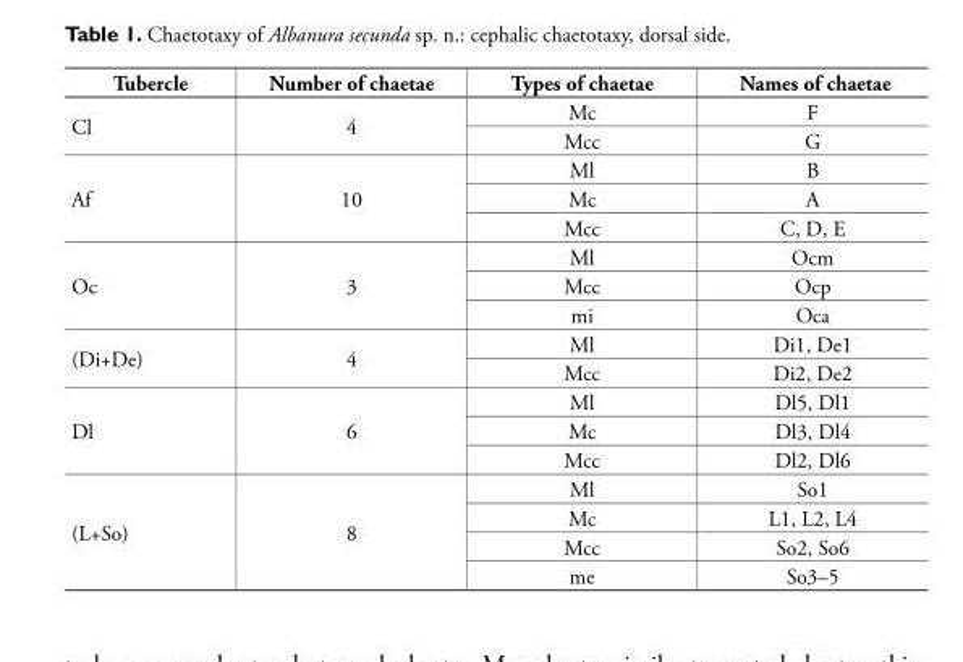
<table><thead><tr><td>Tubercle</td><td>Number of chaetae</td><td>Types of chaetae</td><td>Names of chaetae</td></tr></thead><tbody><tr><td rowspan="2">Cl</td><td rowspan="2">4</td><td>Mc</td><td>F</td></tr><tr><td>Mcc</td><td>G</td></tr><tr><td rowspan="3">Af</td><td rowspan="3">10</td><td>Ml</td><td>B</td></tr><tr><td>Mc</td><td>A</td></tr><tr><td>Mcc</td><td>C, D, E</td></tr><tr><td rowspan="3">Oc</td><td rowspan="3">3</td><td>Ml</td><td>Ocm</td></tr><tr><td>Mcc</td><td>Ocp</td></tr><tr><td>mi</td><td>Oca</td></tr><tr><td rowspan="2">(Di+De)</td><td rowspan="2">4</td><td>Ml</td><td>Di1, De1</td></tr><tr><td>Mcc</td><td>Di2, De2</td></tr><tr><td rowspan="3">Dl</td><td rowspan="3">6</td><td>Ml</td><td>Dl5, Dl1</td></tr><tr><td>Mc</td><td>Dl3, Dl4</td></tr><tr><td>Mcc</td><td>Dl2, Dl6</td></tr><tr><td rowspan="4">(L+So)</td><td rowspan="4">8</td><td>Ml</td><td>So1</td></tr><tr><td>Mc</td><td>L1, L2, L4</td></tr><tr><td>Mcc</td><td>So2, So6</td></tr><tr><td>me</td><td>So3–5</td></tr></tbody></table>